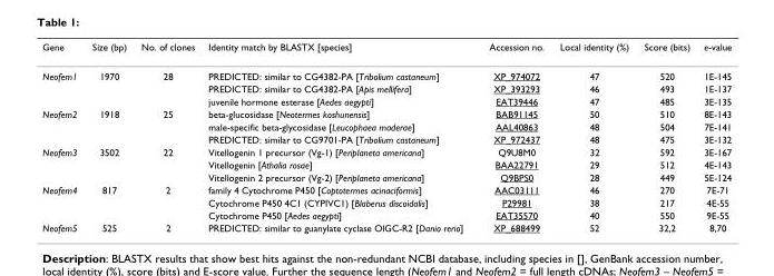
<table><thead><tr><td>Gene</td><td>Size (bp)</td><td>No. of clones</td><td>Identity match by BLASTX [species]</td><td>Accession no.</td><td>Local identity (%)</td><td>Score (bits)</td><td>e-value</td></tr></thead><tbody><tr><td rowspan="3">Neofem1</td><td>1970</td><td>28</td><td>PREDICTED: similar to CG4382-PA [Tribolium castaneum]</td><td>XP_974072</td><td>47</td><td>520</td><td>1E-145</td></tr><tr><td></td><td></td><td>PREDICTED: similar to CG4382-PA [Apis mellifera]</td><td>XP_393293</td><td>46</td><td>493</td><td>1E-137</td></tr><tr><td></td><td></td><td>juvenile hormone esterase [Aedes aegypti]</td><td>EAT39446</td><td>47</td><td>485</td><td>3E-135</td></tr><tr><td rowspan="3">Neofem2</td><td>1918</td><td>25</td><td>beta-glucosidase [Neotermes koshunensis]</td><td>BAB91145</td><td>50</td><td>510</td><td>8E-143</td></tr><tr><td></td><td></td><td>male-specific beta-glycosidase [Leucophaea maderae]</td><td>AAL40863</td><td>48</td><td>504</td><td>7E-141</td></tr><tr><td></td><td></td><td>PREDICTED: similar to CG9701-PA [Tribolium castaneum]</td><td>XP_972437</td><td>48</td><td>475</td><td>3E-132</td></tr><tr><td rowspan="3">Neofem3</td><td>3502</td><td>22</td><td>Vitellogenin 1 precursor (Vg-1) [Periplaneta americana]</td><td>Q9U8M0</td><td>32</td><td>592</td><td>3E-167</td></tr><tr><td></td><td></td><td>Vitellogenin [Athalia rosae]</td><td>BAA22791</td><td>29</td><td>512</td><td>4E-143</td></tr><tr><td></td><td></td><td>Vitellogenin 2 precursor (Vg-2) [Periplaneta americana]</td><td>Q9BPS0</td><td>28</td><td>449</td><td>5E-124</td></tr><tr><td rowspan="3">Neofem4</td><td>817</td><td>2</td><td>family 4 Cytochrome P450 [Coptotermes acinaciformis]</td><td>AAC03111</td><td>46</td><td>270</td><td>7E-71</td></tr><tr><td></td><td></td><td>Cytochrome P450 4C1 (CYPIVC1) [Blaberus discoidalis]</td><td>P29981</td><td>38</td><td>217</td><td>4E-55</td></tr><tr><td></td><td></td><td>Cytochrome P450 [Aedes aegypti]</td><td>EAT35570</td><td>40</td><td>550</td><td>9E-55</td></tr><tr><td>Neofem5</td><td>525</td><td>2</td><td>PREDICTED: similar to guanylate cyclase OlGC-R2 [Danio rerio]</td><td>XP_688499</td><td>52</td><td>32,2</td><td>8,70</td></tr></tbody></table>